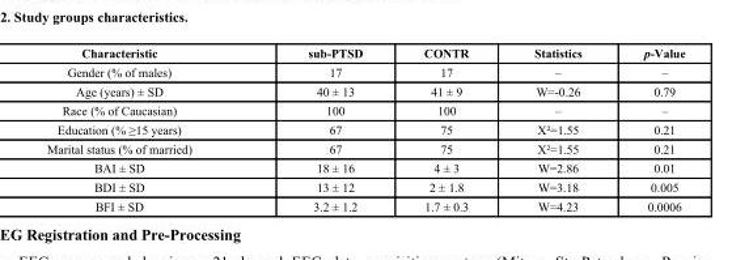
<table><thead><tr><td>Characteristic</td><td>sub-PTSD</td><td>CONTR</td><td>Statistics</td><td>p-Value</td></tr></thead><tbody><tr><td>Gender (% of males)</td><td>17</td><td>17</td><td>–</td><td>–</td></tr><tr><td>Age (years) ± SD</td><td>40 ± 13</td><td>41 ± 9</td><td>W=-0.26</td><td>0.79</td></tr><tr><td>Race (% of Caucasian)</td><td>100</td><td>100</td><td>–</td><td>–</td></tr><tr><td>Education (% ≥15 years)</td><td>67</td><td>75</td><td>X²=1.55</td><td>0.21</td></tr><tr><td>Marital status (% of married)</td><td>67</td><td>75</td><td>X²=1.55</td><td>0.21</td></tr><tr><td>BAI ± SD</td><td>18 ± 16</td><td>4 ± 3</td><td>W=2.86</td><td>0.01</td></tr><tr><td>BDI ± SD</td><td>13 ± 12</td><td>2 ± 1.8</td><td>W=3.18</td><td>0.005</td></tr><tr><td>BFI ± SD</td><td>3.2 ± 1.2</td><td>1.7 ± 0.3</td><td>W=4.23</td><td>0.0006</td></tr></tbody></table>